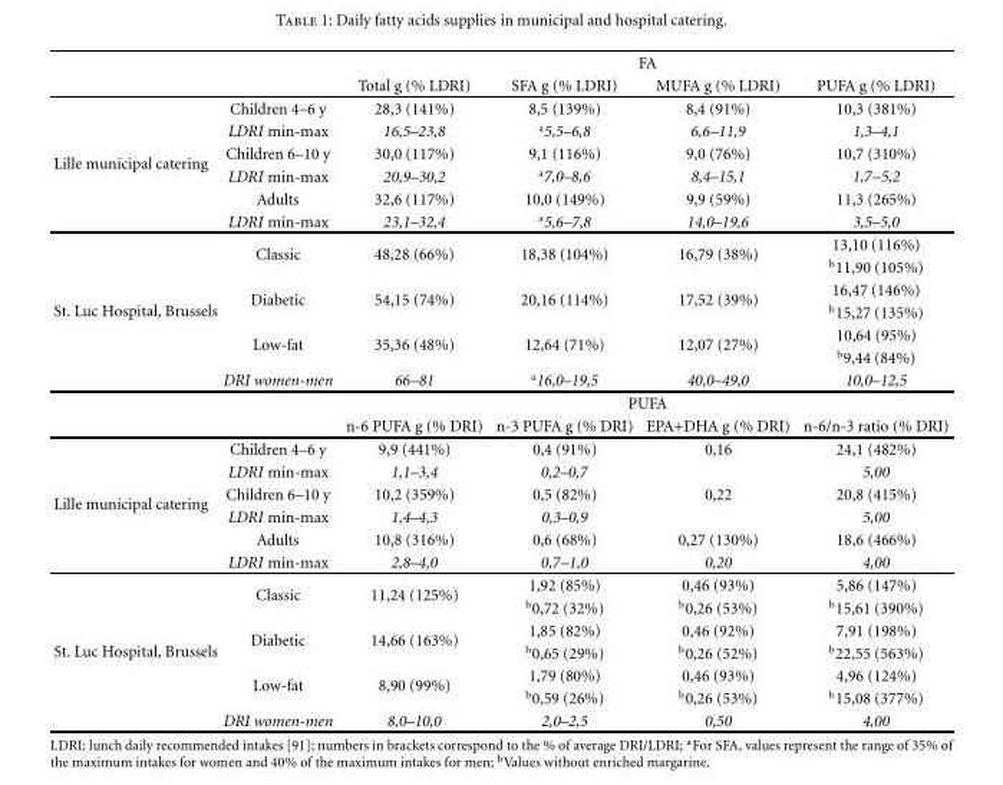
<table><thead><tr><td rowspan="2"></td><td rowspan="2"></td><td colspan="4">FA</td></tr><tr><td>Total g (% LDRI)</td><td>SFA g (% LDRI)</td><td>MUFA g (% LDRI)</td><td>PUFA g (% LDRI)</td></tr></thead><tbody><tr><td rowspan="6">Lille municipal catering</td><td>Children 4–6 y</td><td>28,3 (141%)</td><td>8,5 (139%)</td><td>8,4 (91%)</td><td>10,3 (381%)</td></tr><tr><td>LDRI min-max</td><td>16,5–23,8</td><td><sup>a</sup>5,5–6,8</td><td>6,6–11,9</td><td>1,3–4,1</td></tr><tr><td>Children 6–10 y</td><td>30,0 (117%)</td><td>9,1 (116%)</td><td>9,0 (76%)</td><td>10,7 (310%)</td></tr><tr><td>LDRI min-max</td><td>20,9–30,2</td><td><sup>a</sup>7,0–8,6</td><td>8,4–15,1</td><td>1,7–5,2</td></tr><tr><td>Adults</td><td>32,6 (117%)</td><td>10,0 (149%)</td><td>9,9 (59%)</td><td>11,3 (265%)</td></tr><tr><td>LDRI min-max</td><td>23,1–32,4</td><td><sup>a</sup>5,6–7,8</td><td>14,0–19,6</td><td>3,5–5,0</td></tr><tr><td rowspan="9">St. Luc Hospital, Brussels</td><td rowspan="2">Classic</td><td rowspan="2">48,28 (66%)</td><td rowspan="2">18,38 (104%)</td><td rowspan="2">16,79 (38%)</td><td>13,10 (116%)</td></tr><tr><td><sup>b</sup>11,90 (105%)</td></tr><tr><td rowspan="2">Diabetic</td><td rowspan="2">54,15 (74%)</td><td rowspan="2">20,16 (114%)</td><td rowspan="2">17,52 (39%)</td><td>16,47 (146%)</td></tr><tr><td><sup>b</sup>15,27 (135%)</td></tr><tr><td rowspan="2">Low-fat</td><td rowspan="2">35,36 (48%)</td><td rowspan="2">12,64 (71%)</td><td rowspan="2">12,07 (27%)</td><td>10,64 (95%)</td></tr><tr><td><sup>b</sup>9,44 (84%)</td></tr><tr><td>DRI women-men</td><td>66–81</td><td><sup>a</sup>16,0–19,5</td><td>40,0–49,0</td><td>10,0–12,5</td></tr><tr><td></td><td colspan="4">PUFA</td></tr><tr><td></td><td>n-6 PUFA g (% DRI)</td><td>n-3 PUFA g (% DRI)</td><td>EPA+DHA g (% DRI)</td><td>n-6/n-3 ratio (% DRI)</td></tr><tr><td rowspan="6">Lille municipal catering</td><td>Children 4–6 y</td><td>9,9 (441%)</td><td>0,4 (91%)</td><td>0,16</td><td>24,1 (482%)</td></tr><tr><td>LDRI min-max</td><td>1,1–3,4</td><td>0,2–0,7</td><td></td><td>5,00</td></tr><tr><td>Children 6–10 y</td><td>10,2 (359%)</td><td>0,5 (82%)</td><td>0,22</td><td>20,8 (415%)</td></tr><tr><td>LDRI min-max</td><td>1,4–4,3</td><td>0,3–0,9</td><td></td><td>5,00</td></tr><tr><td>Adults</td><td>10,8 (316%)</td><td>0,6 (68%)</td><td>0,27 (130%)</td><td>18,6 (466%)</td></tr><tr><td>LDRI min-max</td><td>2,8–4,0</td><td>0,7–1,0</td><td>0,20</td><td>4,00</td></tr><tr><td rowspan="7">St. Luc Hospital, Brussels</td><td rowspan="2">Classic</td><td rowspan="2">11,24 (125%)</td><td>1,92 (85%)</td><td>0,46 (93%)</td><td>5,86 (147%)</td></tr><tr><td><sup>b</sup>0,72 (32%)</td><td><sup>b</sup>0,26 (53%)</td><td><sup>b</sup>15,61 (390%)</td></tr><tr><td rowspan="2">Diabetic</td><td rowspan="2">14,66 (163%)</td><td>1,85 (82%)</td><td>0,46 (92%)</td><td>7,91 (198%)</td></tr><tr><td><sup>b</sup>0,65 (29%)</td><td><sup>b</sup>0,26 (52%)</td><td><sup>b</sup>22,55 (563%)</td></tr><tr><td rowspan="2">Low-fat</td><td rowspan="2">8,90 (99%)</td><td>1,79 (80%)</td><td>0,46 (93%)</td><td>4,96 (124%)</td></tr><tr><td><sup>b</sup>0,59 (26%)</td><td><sup>b</sup>0,26 (53%)</td><td><sup>b</sup>15,08 (377%)</td></tr><tr><td>DRI women-men</td><td>8,0–10,0</td><td>2,0–2,5</td><td>0,50</td><td>4,00</td></tr></tbody></table>